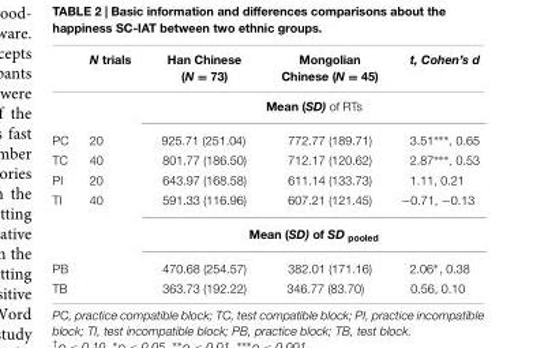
<table><thead><tr><td></td><td>N trials</td><td>Han Chinese (N = 73)</td><td>Mongolian Chinese (N = 45)</td><td>t, Cohen’s d</td></tr></thead><tbody><tr><td></td><td></td><td colspan="3">Mean (SD) of RTs</td></tr><tr><td>PC</td><td>20</td><td>925.71 (251.04)</td><td>772.77 (189.71)</td><td>3.51∗∗∗, 0.65</td></tr><tr><td>TC</td><td>40</td><td>801.77 (186.50)</td><td>712.17 (120.62)</td><td>2.87∗∗∗, 0.53</td></tr><tr><td>PI</td><td>20</td><td>643.97 (168.58)</td><td>611.14 (133.73)</td><td>1.11, 0.21</td></tr><tr><td rowspan="2">TI</td><td>40</td><td>591.33 (116.96)</td><td>607.21 (121.45)</td><td>−0.71, −0.13</td></tr><tr><td></td><td colspan="3">Mean (SD) of SD <sub>pooled</sub></td></tr><tr><td>PB</td><td></td><td>470.68 (254.57)</td><td>382.01 (171.16)</td><td>2.06∗, 0.38</td></tr><tr><td>TB</td><td></td><td>363.73 (192.22)</td><td>346.77 (83.70)</td><td>0.56, 0.10</td></tr></tbody></table>